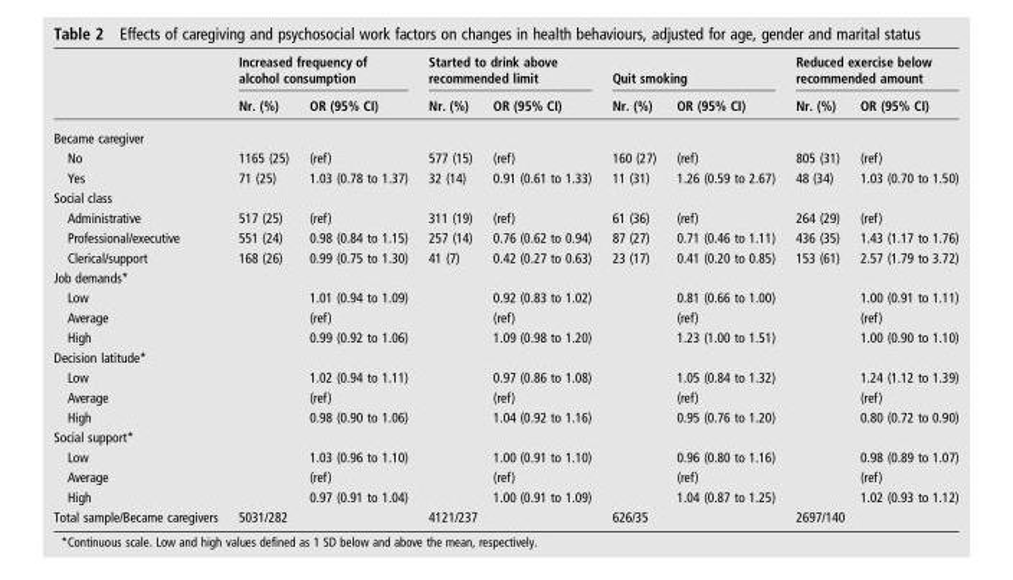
<table><thead><tr><td rowspan="2"></td><td colspan="2">Increased frequency of alcohol consumption</td><td colspan="2">Started to drink above recommended limit</td><td colspan="2">Quit smoking</td><td colspan="2">Reduced exercise below recommended amount</td></tr><tr><td>Nr. (%)</td><td>OR (95% CI)</td><td>Nr. (%)</td><td>OR (95% CI)</td><td>Nr. (%)</td><td>OR (95% CI)</td><td>Nr. (%)</td><td>OR (95% CI)</td></tr></thead><tbody><tr><td colspan="9">Became caregiver</td></tr><tr><td>No</td><td>1165 (25)</td><td>(ref)</td><td>577 (15)</td><td>(ref)</td><td>160 (27)</td><td>(ref)</td><td>805 (31)</td><td>(ref)</td></tr><tr><td>Yes</td><td>71 (25)</td><td>1.03 (0.78 to 1.37)</td><td>32 (14)</td><td>0.91 (0.61 to 1.33)</td><td>11 (31)</td><td>1.26 (0.59 to 2.67)</td><td>48 (34)</td><td>1.03 (0.70 to 1.50)</td></tr><tr><td colspan="9">Social class</td></tr><tr><td>Administrative</td><td>517 (25)</td><td>(ref)</td><td>311 (19)</td><td>(ref)</td><td>61 (36)</td><td>(ref)</td><td>264 (29)</td><td>(ref)</td></tr><tr><td>Professional/executive</td><td>551 (24)</td><td>0.98 (0.84 to 1.15)</td><td>257 (14)</td><td>0.76 (0.62 to 0.94)</td><td>87 (27)</td><td>0.71 (0.46 to 1.11)</td><td>436 (35)</td><td>1.43 (1.17 to 1.76)</td></tr><tr><td>Clerical/support</td><td>168 (26)</td><td>0.99 (0.75 to 1.30)</td><td>41 (7)</td><td>0.42 (0.27 to 0.63)</td><td>23 (17)</td><td>0.41 (0.20 to 0.85)</td><td>153 (61)</td><td>2.57 (1.79 to 3.72)</td></tr><tr><td colspan="9">Job demands*</td></tr><tr><td>Low</td><td></td><td>1.01 (0.94 to 1.09)</td><td></td><td>0.92 (0.83 to 1.02)</td><td></td><td>0.81 (0.66 to 1.00)</td><td></td><td>1.00 (0.91 to 1.11)</td></tr><tr><td>Average</td><td></td><td>(ref)</td><td></td><td>(ref)</td><td></td><td>(ref)</td><td></td><td>(ref)</td></tr><tr><td>High</td><td></td><td>0.99 (0.92 to 1.06)</td><td></td><td>1.09 (0.98 to 1.20)</td><td></td><td>1.23 (1.00 to 1.51)</td><td></td><td>1.00 (0.90 to 1.10)</td></tr><tr><td colspan="9">Decision latitude*</td></tr><tr><td>Low</td><td></td><td>1.02 (0.94 to 1.11)</td><td></td><td>0.97 (0.86 to 1.08)</td><td></td><td>1.05 (0.84 to 1.32)</td><td></td><td>1.24 (1.12 to 1.39)</td></tr><tr><td>Average</td><td></td><td>(ref)</td><td></td><td>(ref)</td><td></td><td>(ref)</td><td></td><td>(ref)</td></tr><tr><td>High</td><td></td><td>0.98 (0.90 to 1.06)</td><td></td><td>1.04 (0.92 to 1.16)</td><td></td><td>0.95 (0.76 to 1.20)</td><td></td><td>0.80 (0.72 to 0.90)</td></tr><tr><td colspan="9">Social support*</td></tr><tr><td>Low</td><td></td><td>1.03 (0.96 to 1.10)</td><td></td><td>1.00 (0.91 to 1.10)</td><td></td><td>0.96 (0.80 to 1.16)</td><td></td><td>0.98 (0.89 to 1.07)</td></tr><tr><td>Average</td><td></td><td>(ref)</td><td></td><td>(ref)</td><td></td><td>(ref)</td><td></td><td>(ref)</td></tr><tr><td>High</td><td></td><td>0.97 (0.91 to 1.04)</td><td></td><td>1.00 (0.91 to 1.09)</td><td></td><td>1.04 (0.87 to 1.25)</td><td></td><td>1.02 (0.93 to 1.12)</td></tr><tr><td>Total sample/Became caregivers</td><td colspan="2">5031/282</td><td colspan="2">4121/237</td><td colspan="2">626/35</td><td colspan="2">2697/140</td></tr></tbody></table>